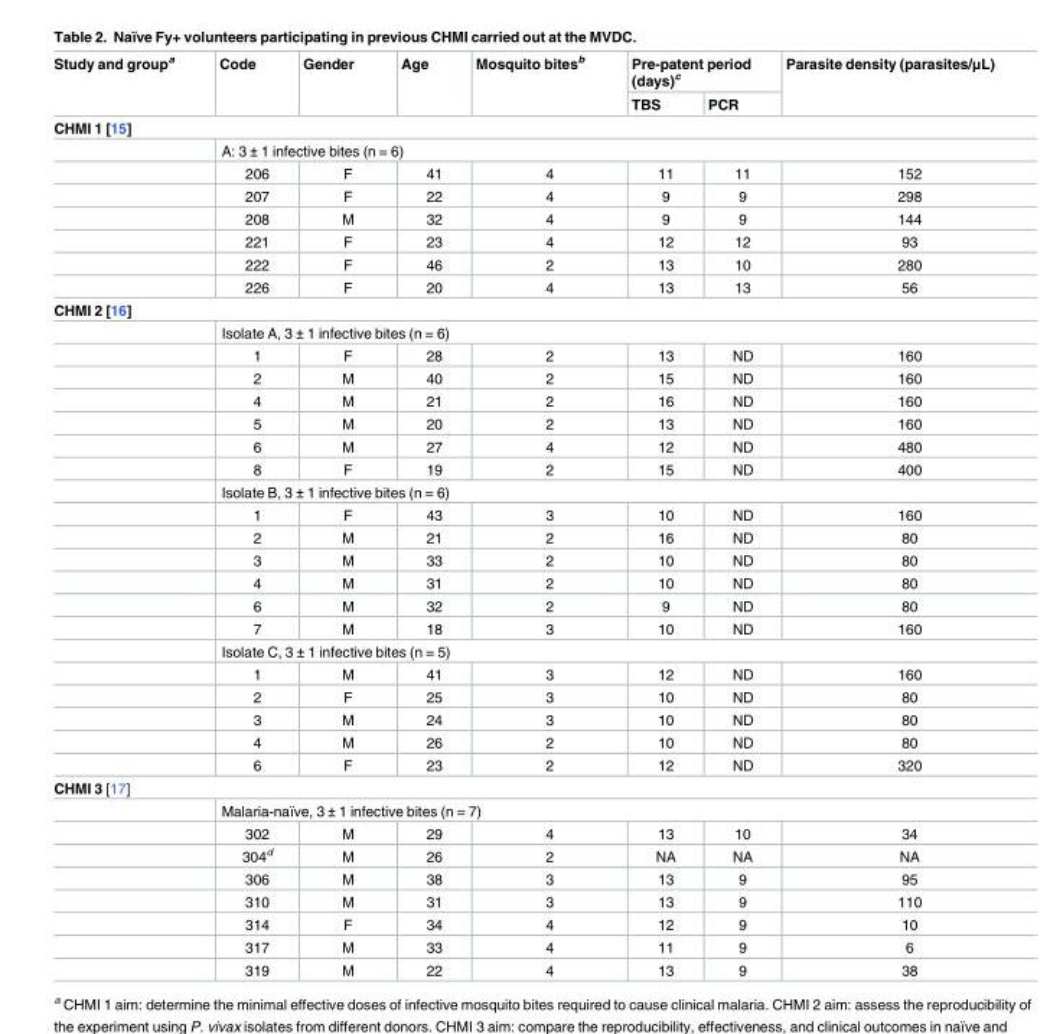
<table><thead><tr><td rowspan="2">Study and group<sup>a</sup></td><td rowspan="2">Code</td><td rowspan="2">Gender</td><td rowspan="2">Age</td><td rowspan="2">Mosquito bites<sup>b</sup></td><td colspan="2">Pre-patent period (days)<sup>c</sup></td><td rowspan="2">Parasite density (parasites/μL)</td></tr><tr><td>TBS</td><td>PCR</td></tr></thead><tbody><tr><td colspan="8">CHMI 1 [15]</td></tr><tr><td></td><td colspan="7">A: 3 ± 1 infective bites (n = 6)</td></tr><tr><td></td><td>206</td><td>F</td><td>41</td><td>4</td><td>11</td><td>11</td><td>152</td></tr><tr><td></td><td>207</td><td>F</td><td>22</td><td>4</td><td>9</td><td>9</td><td>298</td></tr><tr><td></td><td>208</td><td>M</td><td>32</td><td>4</td><td>9</td><td>9</td><td>144</td></tr><tr><td></td><td>221</td><td>F</td><td>23</td><td>4</td><td>12</td><td>12</td><td>93</td></tr><tr><td></td><td>222</td><td>F</td><td>46</td><td>2</td><td>13</td><td>10</td><td>280</td></tr><tr><td></td><td>226</td><td>F</td><td>20</td><td>4</td><td>13</td><td>13</td><td>56</td></tr><tr><td colspan="8">CHMI 2 [16]</td></tr><tr><td></td><td colspan="7">Isolate A, 3 ± 1 infective bites (n = 6)</td></tr><tr><td></td><td>1</td><td>F</td><td>28</td><td>2</td><td>13</td><td>ND</td><td>160</td></tr><tr><td></td><td>2</td><td>M</td><td>40</td><td>2</td><td>15</td><td>ND</td><td>160</td></tr><tr><td></td><td>4</td><td>M</td><td>21</td><td>2</td><td>16</td><td>ND</td><td>160</td></tr><tr><td></td><td>5</td><td>M</td><td>20</td><td>2</td><td>13</td><td>ND</td><td>160</td></tr><tr><td></td><td>6</td><td>M</td><td>27</td><td>4</td><td>12</td><td>ND</td><td>480</td></tr><tr><td></td><td>8</td><td>F</td><td>19</td><td>2</td><td>15</td><td>ND</td><td>400</td></tr><tr><td></td><td colspan="7">Isolate B, 3 ± 1 infective bites (n = 6)</td></tr><tr><td></td><td>1</td><td>F</td><td>43</td><td>3</td><td>10</td><td>ND</td><td>160</td></tr><tr><td></td><td>2</td><td>M</td><td>21</td><td>2</td><td>16</td><td>ND</td><td>80</td></tr><tr><td></td><td>3</td><td>M</td><td>33</td><td>2</td><td>10</td><td>ND</td><td>80</td></tr><tr><td></td><td>4</td><td>M</td><td>31</td><td>2</td><td>10</td><td>ND</td><td>80</td></tr><tr><td></td><td>6</td><td>M</td><td>32</td><td>2</td><td>9</td><td>ND</td><td>80</td></tr><tr><td></td><td>7</td><td>M</td><td>18</td><td>3</td><td>10</td><td>ND</td><td>160</td></tr><tr><td></td><td colspan="7">Isolate C, 3 ± 1 infective bites (n = 5)</td></tr><tr><td></td><td>1</td><td>M</td><td>41</td><td>3</td><td>12</td><td>ND</td><td>160</td></tr><tr><td></td><td>2</td><td>F</td><td>25</td><td>3</td><td>10</td><td>ND</td><td>80</td></tr><tr><td></td><td>3</td><td>M</td><td>24</td><td>3</td><td>10</td><td>ND</td><td>80</td></tr><tr><td></td><td>4</td><td>M</td><td>26</td><td>2</td><td>10</td><td>ND</td><td>80</td></tr><tr><td></td><td>6</td><td>F</td><td>23</td><td>2</td><td>12</td><td>ND</td><td>320</td></tr><tr><td colspan="8">CHMI 3 [17]</td></tr><tr><td></td><td colspan="7">Malaria-naïve, 3 ± 1 infective bites (n = 7)</td></tr><tr><td></td><td>302</td><td>M</td><td>29</td><td>4</td><td>13</td><td>10</td><td>34</td></tr><tr><td></td><td>304<sup>d</sup></td><td>M</td><td>26</td><td>2</td><td>NA</td><td>NA</td><td>NA</td></tr><tr><td></td><td>306</td><td>M</td><td>38</td><td>3</td><td>13</td><td>9</td><td>95</td></tr><tr><td></td><td>310</td><td>M</td><td>31</td><td>3</td><td>13</td><td>9</td><td>110</td></tr><tr><td></td><td>314</td><td>F</td><td>34</td><td>4</td><td>12</td><td>9</td><td>10</td></tr><tr><td></td><td>317</td><td>M</td><td>33</td><td>4</td><td>11</td><td>9</td><td>6</td></tr><tr><td></td><td>319</td><td>M</td><td>22</td><td>4</td><td>13</td><td>9</td><td>38</td></tr></tbody></table>